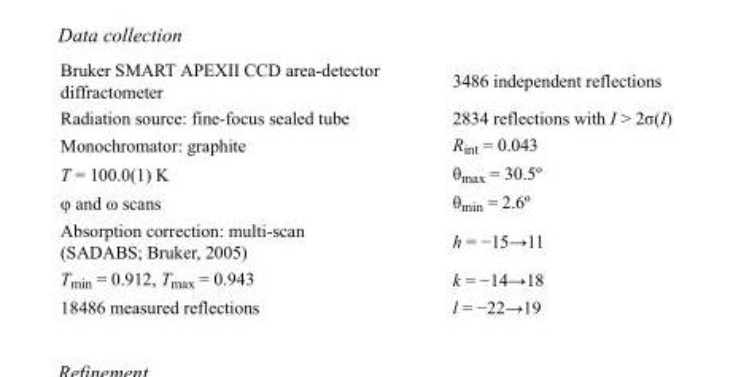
<table><tbody><tr><td>Bruker SMART APEXII CCD area-detector diffractometer</td><td>3486 independent reflections</td></tr><tr><td>Radiation source: fine-focus sealed tube</td><td>2834 reflections with I &gt; 2σ(I)</td></tr><tr><td>Monochromator: graphite</td><td>R<sub>int</sub> = 0.043</td></tr><tr><td>T = 100.0(1) K</td><td>θ<sub>max</sub> = 30.5º</td></tr><tr><td>φ and ω scans</td><td>θ<sub>min</sub> = 2.6º</td></tr><tr><td>Absorption correction: multi-scan (SADABS; Bruker, 2005)</td><td>h = −15→11</td></tr><tr><td>T<sub>min</sub> = 0.912, T<sub>max</sub> = 0.943</td><td>k = −14→18</td></tr><tr><td>18486 measured reflections</td><td>l = −22→19</td></tr></tbody></table>